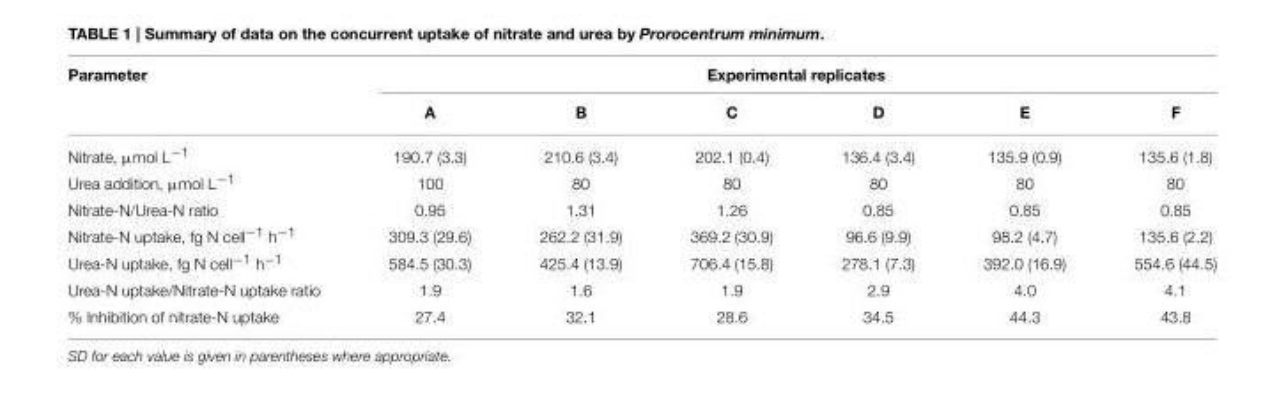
<table><thead><tr><td rowspan="2">Parameter</td><td colspan="6">Experimental replicates</td></tr><tr><td>A</td><td>B</td><td>C</td><td>D</td><td>E</td><td>F</td></tr></thead><tbody><tr><td>Nitrate, µmol L<sup>−1</sup></td><td>190.7 (3.3)</td><td>210.6 (3.4)</td><td>202.1 (0.4)</td><td>136.4 (3.4)</td><td>135.9 (0.9)</td><td>135.6 (1.8)</td></tr><tr><td>Urea addition, µmol L<sup>−1</sup></td><td>100</td><td>80</td><td>80</td><td>80</td><td>80</td><td>80</td></tr><tr><td>Nitrate-N/Urea-N ratio</td><td>0.95</td><td>1.31</td><td>1.26</td><td>0.85</td><td>0.85</td><td>0.85</td></tr><tr><td>Nitrate-N uptake, fg N cell<sup>−1</sup> h<sup>−1</sup></td><td>309.3 (29.6)</td><td>262.2 (31.9)</td><td>369.2 (30.9)</td><td>96.6 (9.9)</td><td>98.2 (4.7)</td><td>135.6 (2.2)</td></tr><tr><td>Urea-N uptake, fg N cell<sup>−1</sup> h<sup>−1</sup></td><td>584.5 (30.3)</td><td>425.4 (13.9)</td><td>706.4 (15.8)</td><td>278.1 (7.3)</td><td>392.0 (16.9)</td><td>554.6 (44.5)</td></tr><tr><td>Urea-N uptake/Nitrate-N uptake ratio</td><td>1.9</td><td>1.6</td><td>1.9</td><td>2.9</td><td>4.0</td><td>4.1</td></tr><tr><td>% Inhibition of nitrate-N uptake</td><td>27.4</td><td>32.1</td><td>28.6</td><td>34.5</td><td>44.3</td><td>43.8</td></tr></tbody></table>